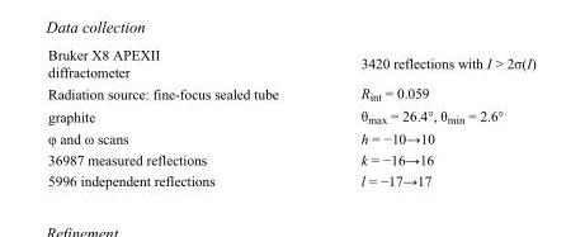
<table><tbody><tr><td>Bruker X8 APEXII diffractometer</td><td>3420 reflections with I &gt; 2σ(I)</td></tr><tr><td>Radiation source: fine-focus sealed tube</td><td>R<sub>int</sub> = 0.059</td></tr><tr><td>graphite</td><td>θ<sub>max</sub> = 26.4°, θ<sub>min</sub> = 2.6°</td></tr><tr><td>φ and ω scans</td><td>h = −10→10</td></tr><tr><td>36987 measured reflections</td><td>k = −16→16</td></tr><tr><td>5996 independent reflections</td><td>l = −17→17</td></tr></tbody></table>